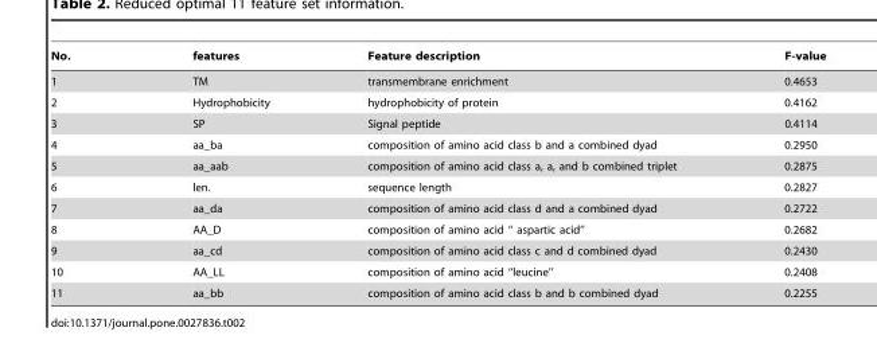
<table><thead><tr><td>No.</td><td>features</td><td>Feature description</td><td>F-value</td></tr></thead><tbody><tr><td>1</td><td>TM</td><td>transmembrane enrichment</td><td>0.4653</td></tr><tr><td>2</td><td>Hydrophobicity</td><td>hydrophobicity of protein</td><td>0.4162</td></tr><tr><td>3</td><td>SP</td><td>Signal peptide</td><td>0.4114</td></tr><tr><td>4</td><td>aa_ba</td><td>composition of amino acid class b and a combined dyad</td><td>0.2950</td></tr><tr><td>5</td><td>aa_aab</td><td>composition of amino acid class a, a, and b combined triplet</td><td>0.2875</td></tr><tr><td>6</td><td>len.</td><td>sequence length</td><td>0.2827</td></tr><tr><td>7</td><td>aa_da</td><td>composition of amino acid class d and a combined dyad</td><td>0.2722</td></tr><tr><td>8</td><td>AA_D</td><td>composition of amino acid ‘‘ aspartic acid’’</td><td>0.2682</td></tr><tr><td>9</td><td>aa_cd</td><td>composition of amino acid class c and d combined dyad</td><td>0.2430</td></tr><tr><td>10</td><td>AA_LL</td><td>composition of amino acid ‘‘leucine’’</td><td>0.2408</td></tr><tr><td>11</td><td>aa_bb</td><td>composition of amino acid class b and b combined dyad</td><td>0.2255</td></tr></tbody></table>